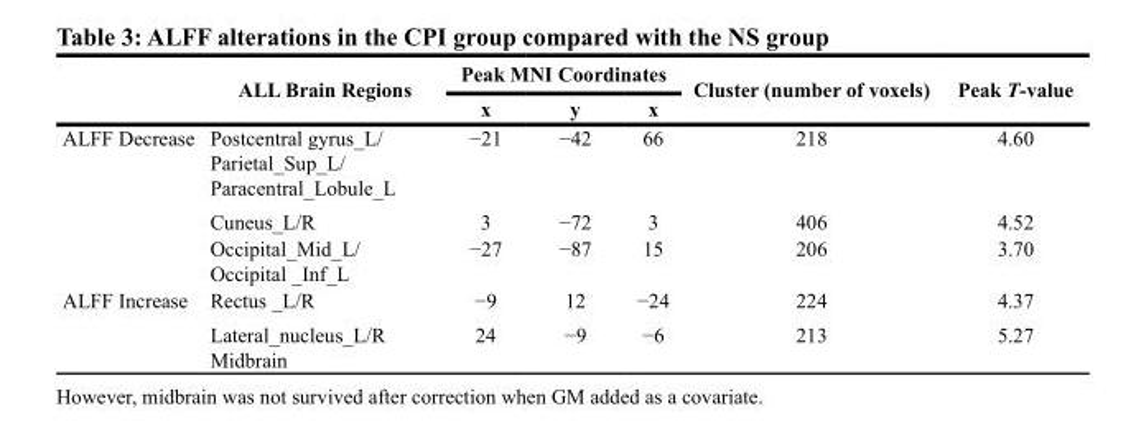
<table><thead><tr><td rowspan="2"></td><td rowspan="2">ALL Brain Regions</td><td colspan="3">Peak MNI Coordinates</td><td rowspan="2">Cluster (number of voxels)</td><td rowspan="2">Peak T-value</td></tr><tr><td>x</td><td>y</td><td>x</td></tr></thead><tbody><tr><td rowspan="3">ALFF Decrease</td><td>Postcentral gyrus_L/ Parietal_Sup_L/ Paracentral_Lobule_L</td><td>−21</td><td>−42</td><td>66</td><td>218</td><td>4.60</td></tr><tr><td>Cuneus_L/R</td><td>3</td><td>−72</td><td>3</td><td>406</td><td>4.52</td></tr><tr><td>Occipital_Mid_L/ Occipital _Inf_L</td><td>−27</td><td>−87</td><td>15</td><td>206</td><td>3.70</td></tr><tr><td rowspan="2">ALFF Increase</td><td>Rectus _L/R</td><td>−9</td><td>12</td><td>−24</td><td>224</td><td>4.37</td></tr><tr><td>Lateral_nucleus_L/R Midbrain</td><td>24</td><td>−9</td><td>−6</td><td>213</td><td>5.27</td></tr></tbody></table>